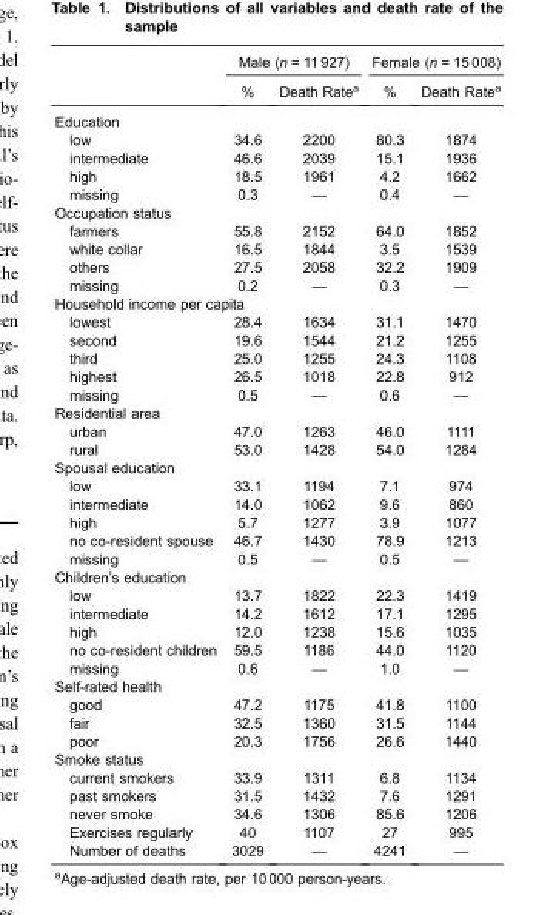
<table><thead><tr><td rowspan="2"></td><td colspan="2">Male (n = 11 927)</td><td colspan="2">Female (n = 15 008)</td></tr><tr><td>%</td><td>Death Rate<sup>a</sup></td><td>%</td><td>Death Rate<sup>a</sup></td></tr></thead><tbody><tr><td colspan="5">Education</td></tr><tr><td>low</td><td>34.6</td><td>2200</td><td>80.3</td><td>1874</td></tr><tr><td>intermediate</td><td>46.6</td><td>2039</td><td>15.1</td><td>1936</td></tr><tr><td>high</td><td>18.5</td><td>1961</td><td>4.2</td><td>1662</td></tr><tr><td>missing</td><td>0.3</td><td>—</td><td>0.4</td><td>—</td></tr><tr><td colspan="5">Occupation status</td></tr><tr><td>farmers</td><td>55.8</td><td>2152</td><td>64.0</td><td>1852</td></tr><tr><td>white collar</td><td>16.5</td><td>1844</td><td>3.5</td><td>1539</td></tr><tr><td>others</td><td>27.5</td><td>2058</td><td>32.2</td><td>1909</td></tr><tr><td>missing</td><td>0.2</td><td>—</td><td>0.3</td><td>—</td></tr><tr><td colspan="5">Household income per capita</td></tr><tr><td>lowest</td><td>28.4</td><td>1634</td><td>31.1</td><td>1470</td></tr><tr><td>second</td><td>19.6</td><td>1544</td><td>21.2</td><td>1255</td></tr><tr><td>third</td><td>25.0</td><td>1255</td><td>24.3</td><td>1108</td></tr><tr><td>highest</td><td>26.5</td><td>1018</td><td>22.8</td><td>912</td></tr><tr><td>missing</td><td>0.5</td><td>—</td><td>0.6</td><td>—</td></tr><tr><td colspan="5">Residential area</td></tr><tr><td>urban</td><td>47.0</td><td>1263</td><td>46.0</td><td>1111</td></tr><tr><td>rural</td><td>53.0</td><td>1428</td><td>54.0</td><td>1284</td></tr><tr><td colspan="5">Spousal education</td></tr><tr><td>low</td><td>33.1</td><td>1194</td><td>7.1</td><td>974</td></tr><tr><td>intermediate</td><td>14.0</td><td>1062</td><td>9.6</td><td>860</td></tr><tr><td>high</td><td>5.7</td><td>1277</td><td>3.9</td><td>1077</td></tr><tr><td>no co-resident spouse</td><td>46.7</td><td>1430</td><td>78.9</td><td>1213</td></tr><tr><td>missing</td><td>0.5</td><td>—</td><td>0.5</td><td>—</td></tr><tr><td colspan="5">Children’s education</td></tr><tr><td>low</td><td>13.7</td><td>1822</td><td>22.3</td><td>1419</td></tr><tr><td>intermediate</td><td>14.2</td><td>1612</td><td>17.1</td><td>1295</td></tr><tr><td>high</td><td>12.0</td><td>1238</td><td>15.6</td><td>1035</td></tr><tr><td>no co-resident children</td><td>59.5</td><td>1186</td><td>44.0</td><td>1120</td></tr><tr><td>missing</td><td>0.6</td><td>—</td><td>1.0</td><td>—</td></tr><tr><td colspan="5">Self-rated health</td></tr><tr><td>good</td><td>47.2</td><td>1175</td><td>41.8</td><td>1100</td></tr><tr><td>fair</td><td>32.5</td><td>1360</td><td>31.5</td><td>1144</td></tr><tr><td>poor</td><td>20.3</td><td>1756</td><td>26.6</td><td>1440</td></tr><tr><td colspan="5">Smoke status</td></tr><tr><td>current smokers</td><td>33.9</td><td>1311</td><td>6.8</td><td>1134</td></tr><tr><td>past smokers</td><td>31.5</td><td>1432</td><td>7.6</td><td>1291</td></tr><tr><td>never smoke</td><td>34.6</td><td>1306</td><td>85.6</td><td>1206</td></tr><tr><td>Exercises regularly</td><td>40</td><td>1107</td><td>27</td><td>995</td></tr><tr><td>Number of deaths</td><td>3029</td><td>—</td><td>4241</td><td>—</td></tr></tbody></table>